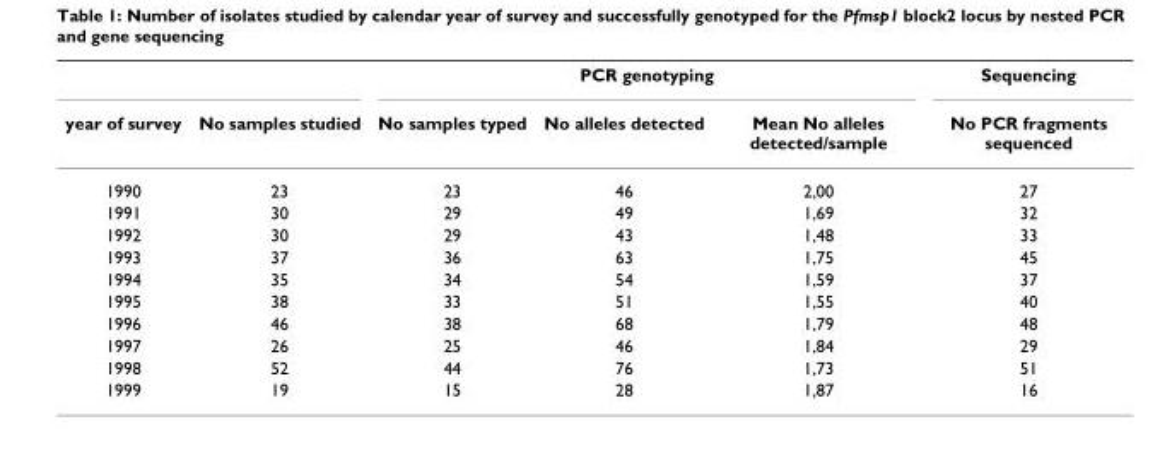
<table><thead><tr><td rowspan="2">year of survey</td><td rowspan="2">No samples studied</td><td colspan="3">PCR genotyping</td><td rowspan="2">Sequencing No PCR fragments sequenced</td></tr><tr><td>No samples typed</td><td>No alleles detected</td><td>Mean No alleles detected/sample</td></tr></thead><tbody><tr><td>1990</td><td>23</td><td>23</td><td>46</td><td>2,00</td><td>27</td></tr><tr><td>1991</td><td>30</td><td>29</td><td>49</td><td>1,69</td><td>32</td></tr><tr><td>1992</td><td>30</td><td>29</td><td>43</td><td>1,48</td><td>33</td></tr><tr><td>1993</td><td>37</td><td>36</td><td>63</td><td>1,75</td><td>45</td></tr><tr><td>1994</td><td>35</td><td>34</td><td>54</td><td>1,59</td><td>37</td></tr><tr><td>1995</td><td>38</td><td>33</td><td>51</td><td>1,55</td><td>40</td></tr><tr><td>1996</td><td>46</td><td>38</td><td>68</td><td>1,79</td><td>48</td></tr><tr><td>1997</td><td>26</td><td>25</td><td>46</td><td>1,84</td><td>29</td></tr><tr><td>1998</td><td>52</td><td>44</td><td>76</td><td>1,73</td><td>51</td></tr><tr><td>1999</td><td>19</td><td>15</td><td>28</td><td>1,87</td><td>16</td></tr></tbody></table>